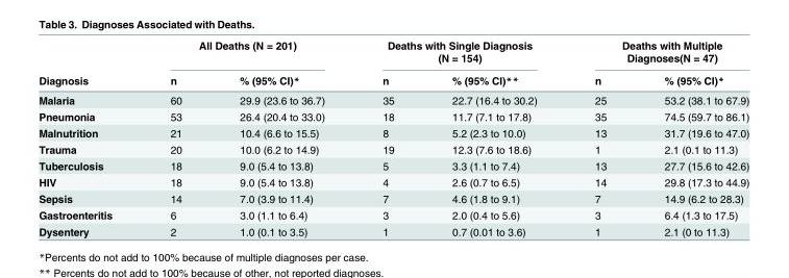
<table><thead><tr><td rowspan="2">Diagnosis</td><td colspan="2">All Deaths (N = 201)</td><td colspan="2">Deaths with Single Diagnosis (N = 154)</td><td colspan="2">Deaths with Multiple Diagnoses(N = 47)</td></tr><tr><td>n</td><td>% (95% CI)*</td><td>n</td><td>% (95% CI)**</td><td>n</td><td>% (95% CI)*</td></tr></thead><tbody><tr><td>Malaria</td><td>60</td><td>29.9 (23.6 to 36.7)</td><td>35</td><td>22.7 (16.4 to 30.2)</td><td>25</td><td>53.2 (38.1 to 67.9)</td></tr><tr><td>Pneumonia</td><td>53</td><td>26.4 (20.4 to 33.0)</td><td>18</td><td>11.7 (7.1 to 17.8)</td><td>35</td><td>74.5 (59.7 to 86.1)</td></tr><tr><td>Malnutrition</td><td>21</td><td>10.4 (6.6 to 15.5)</td><td>8</td><td>5.2 (2.3 to 10.0)</td><td>13</td><td>31.7 (19.6 to 47.0)</td></tr><tr><td>Trauma</td><td>20</td><td>10.0 (6.2 to 14.9)</td><td>19</td><td>12.3 (7.6 to 18.6)</td><td>1</td><td>2.1 (0.1 to 11.3)</td></tr><tr><td>Tuberculosis</td><td>18</td><td>9.0 (5.4 to 13.8)</td><td>5</td><td>3.3 (1.1 to 7.4)</td><td>13</td><td>27.7 (15.6 to 42.6)</td></tr><tr><td>HIV</td><td>18</td><td>9.0 (5.4 to 13.8)</td><td>4</td><td>2.6 (0.7 to 6.5)</td><td>14</td><td>29.8 (17.3 to 44.9)</td></tr><tr><td>Sepsis</td><td>14</td><td>7.0 (3.9 to 11.4)</td><td>7</td><td>4.6 (1.8 to 9.1)</td><td>7</td><td>14.9 (6.2 to 28.3)</td></tr><tr><td>Gastroenteritis</td><td>6</td><td>3.0 (1.1 to 6.4)</td><td>3</td><td>2.0 (0.4 to 5.6)</td><td>3</td><td>6.4 (1.3 to 17.5)</td></tr><tr><td>Dysentery</td><td>2</td><td>1.0 (0.1 to 3.5)</td><td>1</td><td>0.7 (0.01 to 3.6)</td><td>1</td><td>2.1 (0 to 11.3)</td></tr></tbody></table>